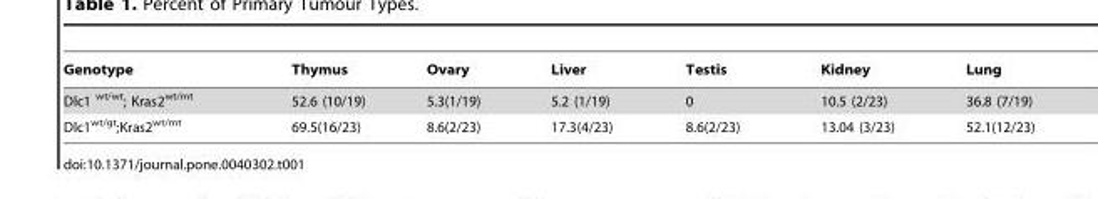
<table><thead><tr><td>Genotype</td><td>Thymus</td><td>Ovary</td><td>Liver</td><td>Testis</td><td>Kidney</td><td>Lung</td></tr></thead><tbody><tr><td>Dlc1 <sup>wt/wt</sup>; Kras2<sup>wt/mt</sup></td><td>52.6 (10/19)</td><td>5.3(1/19)</td><td>5.2 (1/19)</td><td>0</td><td>10.5 (2/23)</td><td>36.8 (7/19)</td></tr><tr><td>Dlc1<sup>wt/gt</sup>;Kras2<sup>wt/mt</sup></td><td>69.5(16/23)</td><td>8.6(2/23)</td><td>17.3(4/23)</td><td>8.6(2/23)</td><td>13.04 (3/23)</td><td>52.1(12/23)</td></tr></tbody></table>